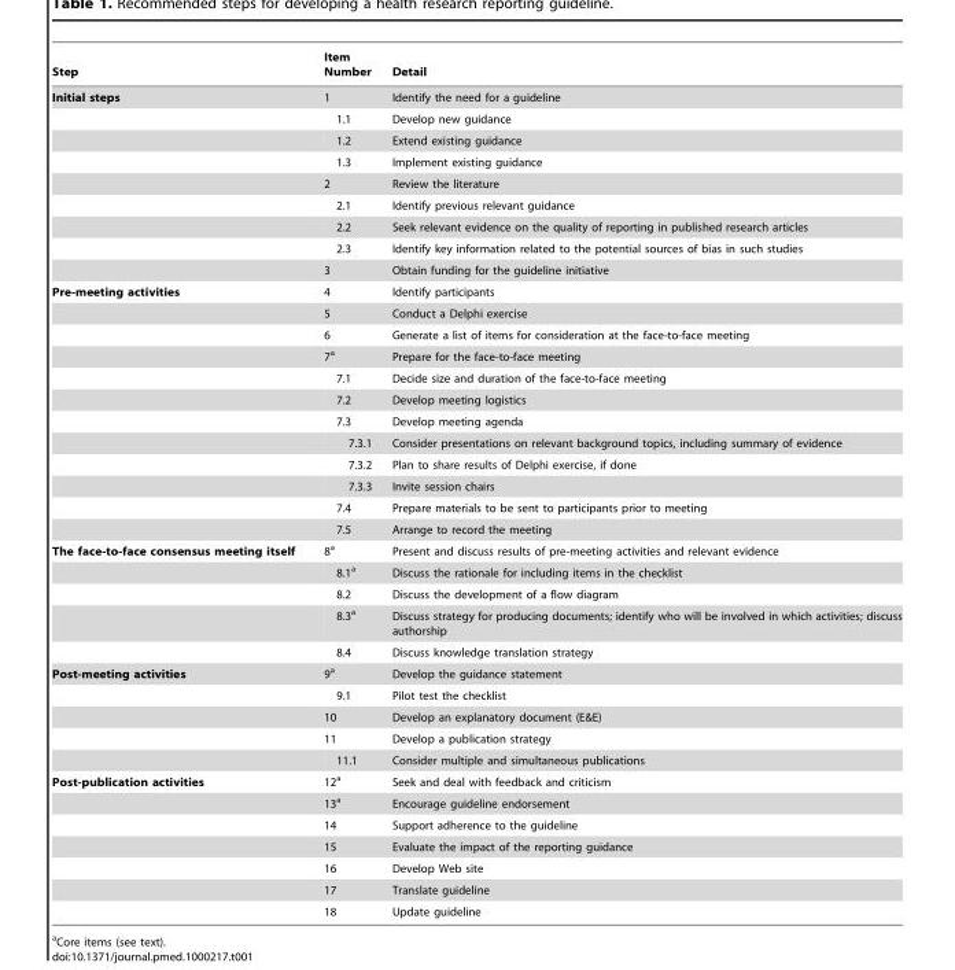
<table><thead><tr><td>Step</td><td>Item Number</td><td>Detail</td></tr></thead><tbody><tr><td rowspan="9">Initial steps</td><td>1</td><td>Identify the need for a guideline</td></tr><tr><td>1.1</td><td>Develop new guidance</td></tr><tr><td>1.2</td><td>Extend existing guidance</td></tr><tr><td>1.3</td><td>Implement existing guidance</td></tr><tr><td>2</td><td>Review the literature</td></tr><tr><td>2.1</td><td>Identify previous relevant guidance</td></tr><tr><td>2.2</td><td>Seek relevant evidence on the quality of reporting in published research articles</td></tr><tr><td>2.3</td><td>Identify key information related to the potential sources of bias in such studies</td></tr><tr><td>3</td><td>Obtain funding for the guideline initiative</td></tr><tr><td rowspan="12">Pre-meeting activities</td><td>4</td><td>Identify participants</td></tr><tr><td>5</td><td>Conduct a Delphi exercise</td></tr><tr><td>6</td><td>Generate a list of items for consideration at the face-to-face meeting</td></tr><tr><td>7<sup>a</sup></td><td>Prepare for the face-to-face meeting</td></tr><tr><td>7.1</td><td>Decide size and duration of the face-to-face meeting</td></tr><tr><td>7.2</td><td>Develop meeting logistics</td></tr><tr><td>7.3</td><td>Develop meeting agenda</td></tr><tr><td>7.3.1</td><td>Consider presentations on relevant background topics, including summary of evidence</td></tr><tr><td>7.3.2</td><td>Plan to share results of Delphi exercise, if done</td></tr><tr><td>7.3.3</td><td>Invite session chairs</td></tr><tr><td>7.4</td><td>Prepare materials to be sent to participants prior to meeting</td></tr><tr><td>7.5</td><td>Arrange to record the meeting</td></tr><tr><td rowspan="5">The face-to-face consensus meeting itself</td><td>8<sup>a</sup></td><td>Present and discuss results of pre-meeting activities and relevant evidence</td></tr><tr><td>8.1<sup>a</sup></td><td>Discuss the rationale for including items in the checklist</td></tr><tr><td>8.2</td><td>Discuss the development of a flow diagram</td></tr><tr><td>8.3<sup>a</sup></td><td>Discuss strategy for producing documents; identify who will be involved in which activities; discuss authorship</td></tr><tr><td>8.4</td><td>Discuss knowledge translation strategy</td></tr><tr><td rowspan="5">Post-meeting activities</td><td>9<sup>a</sup></td><td>Develop the guidance statement</td></tr><tr><td>9.1</td><td>Pilot test the checklist</td></tr><tr><td>10</td><td>Develop an explanatory document (E&amp;E)</td></tr><tr><td>11</td><td>Develop a publication strategy</td></tr><tr><td>11.1</td><td>Consider multiple and simultaneous publications</td></tr><tr><td rowspan="7">Post-publication activities</td><td>12<sup>a</sup></td><td>Seek and deal with feedback and criticism</td></tr><tr><td>13<sup>a</sup></td><td>Encourage guideline endorsement</td></tr><tr><td>14</td><td>Support adherence to the guideline</td></tr><tr><td>15</td><td>Evaluate the impact of the reporting guidance</td></tr><tr><td>16</td><td>Develop Web site</td></tr><tr><td>17</td><td>Translate guideline</td></tr><tr><td>18</td><td>Update guideline</td></tr></tbody></table>